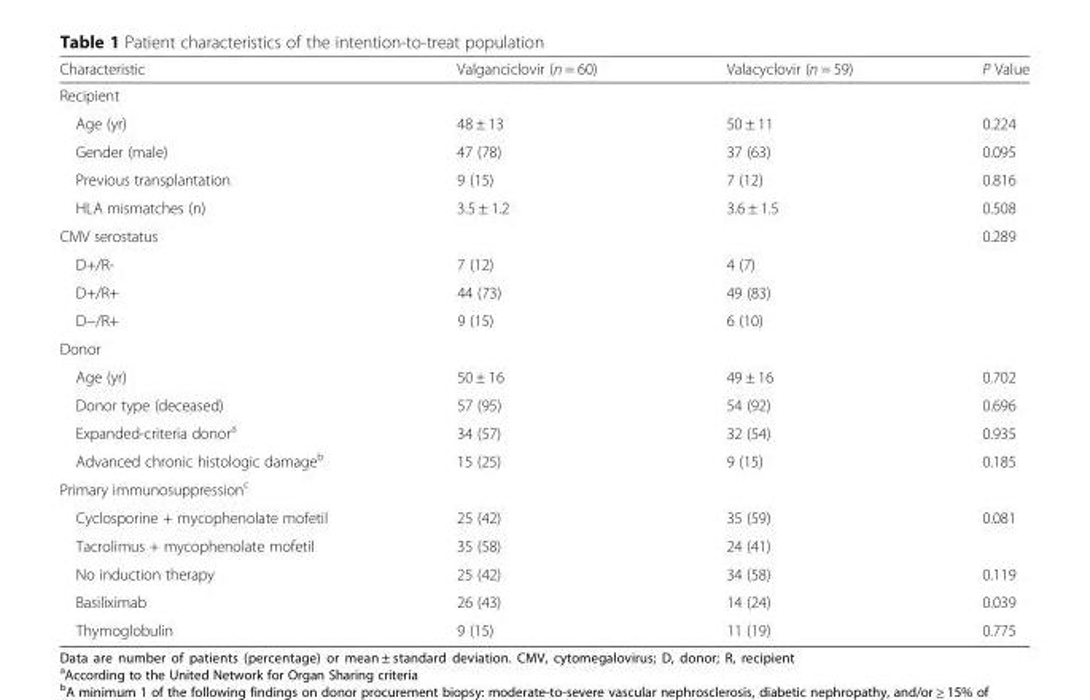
<table><thead><tr><td>Characteristic</td><td>Valganciclovir (n = 60)</td><td>Valacyclovir (n = 59)</td><td>P Value</td></tr></thead><tbody><tr><td colspan="4">Recipient</td></tr><tr><td>Age (yr)</td><td>48 ± 13</td><td>50 ± 11</td><td>0.224</td></tr><tr><td>Gender (male)</td><td>47 (78)</td><td>37 (63)</td><td>0.095</td></tr><tr><td>Previous transplantation</td><td>9 (15)</td><td>7 (12)</td><td>0.816</td></tr><tr><td>HLA mismatches (n)</td><td>3.5 ± 1.2</td><td>3.6 ± 1.5</td><td>0.508</td></tr><tr><td>CMV serostatus</td><td></td><td></td><td>0.289</td></tr><tr><td>D+/R-</td><td>7 (12)</td><td>4 (7)</td><td></td></tr><tr><td>D+/R+</td><td>44 (73)</td><td>49 (83)</td><td></td></tr><tr><td>D−/R+</td><td>9 (15)</td><td>6 (10)</td><td></td></tr><tr><td colspan="4">Donor</td></tr><tr><td>Age (yr)</td><td>50 ± 16</td><td>49 ± 16</td><td>0.702</td></tr><tr><td>Donor type (deceased)</td><td>57 (95)</td><td>54 (92)</td><td>0.696</td></tr><tr><td>Expanded-criteria donor<sup>a</sup></td><td>34 (57)</td><td>32 (54)</td><td>0.935</td></tr><tr><td>Advanced chronic histologic damage<sup>b</sup></td><td>15 (25)</td><td>9 (15)</td><td>0.185</td></tr><tr><td colspan="4">Primary immunosuppression<sup>c</sup></td></tr><tr><td>Cyclosporine + mycophenolate mofetil</td><td>25 (42)</td><td>35 (59)</td><td>0.081</td></tr><tr><td>Tacrolimus + mycophenolate mofetil</td><td>35 (58)</td><td>24 (41)</td><td></td></tr><tr><td>No induction therapy</td><td>25 (42)</td><td>34 (58)</td><td>0.119</td></tr><tr><td>Basiliximab</td><td>26 (43)</td><td>14 (24)</td><td>0.039</td></tr><tr><td>Thymoglobulin</td><td>9 (15)</td><td>11 (19)</td><td>0.775</td></tr></tbody></table>